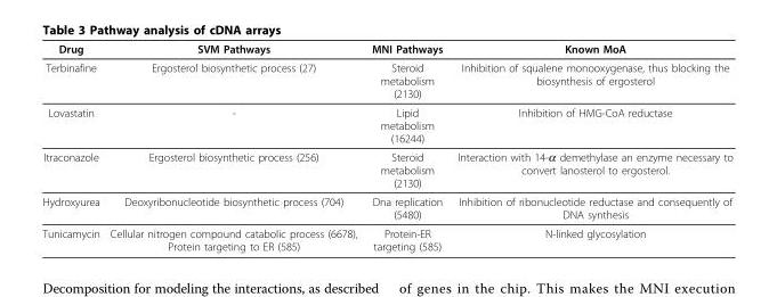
<table><thead><tr><td>Drug</td><td>SVM Pathways</td><td>MNI Pathways</td><td>Known MoA</td></tr></thead><tbody><tr><td>Terbinafine</td><td>Ergosterol biosynthetic process (27)</td><td>Steroid metabolism (2130)</td><td>Inhibition of squalene monooxygenase, thus blocking the biosynthesis of ergosterol</td></tr><tr><td>Lovastatin</td><td>-</td><td>Lipid metabolism (16244)</td><td>Inhibition of HMG-CoA reductase</td></tr><tr><td>Itraconazole</td><td>Ergosterol biosynthetic process (256)</td><td>Steroid metabolism (2130)</td><td>Interaction with 14-α demethylase an enzyme necessary to convert lanosterol to ergosterol.</td></tr><tr><td>Hydroxyurea</td><td>Deoxyribonucleotide biosynthetic process (704)</td><td>Dna replication (5480)</td><td>Inhibition of ribonucleotide reductase and consequently of DNA synthesis</td></tr><tr><td>Tunicamycin</td><td>Cellular nitrogen compound catabolic process (6678), Protein targeting to ER (585)</td><td>Protein-ER targeting (585)</td><td>N-linked glycosylation</td></tr></tbody></table>